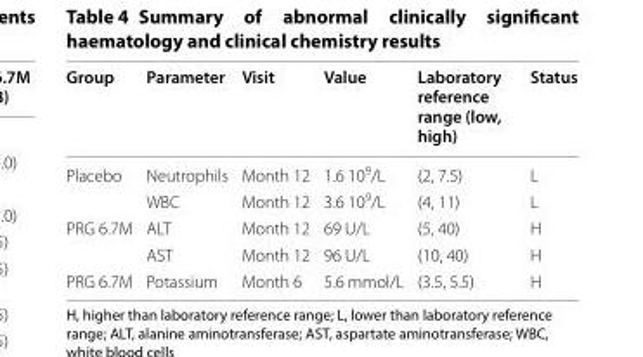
<table><thead><tr><td>Group</td><td>Parameter</td><td>Visit</td><td>Value</td><td>Laboratory reference range (low, high)</td><td>Status</td></tr></thead><tbody><tr><td rowspan="2">Placebo</td><td>Neutrophils</td><td>Month 12</td><td>1.6 10<sup>9</sup>/L</td><td>(2, 7.5)</td><td>L</td></tr><tr><td>WBC</td><td>Month 12</td><td>3.6 10<sup>9</sup>/L</td><td>(4, 11)</td><td>L</td></tr><tr><td rowspan="2">PRG 6.7M</td><td>ALT</td><td>Month 12</td><td>69 U/L</td><td>(5, 40)</td><td>H</td></tr><tr><td>AST</td><td>Month 12</td><td>96 U/L</td><td>(10, 40)</td><td>H</td></tr><tr><td>PRG 6.7M</td><td>Potassium</td><td>Month 6</td><td>5.6 mmol/L</td><td>(3.5, 5.5)</td><td>H</td></tr></tbody></table>